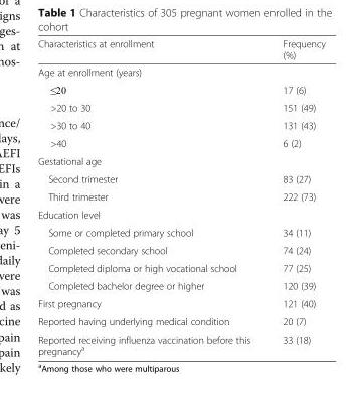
<table><thead><tr><td>Characteristics at enrollment</td><td>Frequency (%)</td></tr></thead><tbody><tr><td colspan="2">Age at enrollment (years)</td></tr><tr><td>≤20</td><td>17 (6)</td></tr><tr><td>&gt;20 to 30</td><td>151 (49)</td></tr><tr><td>&gt;30 to 40</td><td>131 (43)</td></tr><tr><td>&gt;40</td><td>6 (2)</td></tr><tr><td colspan="2">Gestational age</td></tr><tr><td>Second trimester</td><td>83 (27)</td></tr><tr><td>Third trimester</td><td>222 (73)</td></tr><tr><td colspan="2">Education level</td></tr><tr><td>Some or completed primary school</td><td>34 (11)</td></tr><tr><td>Completed secondary school</td><td>74 (24)</td></tr><tr><td>Completed diploma or high vocational school</td><td>77 (25)</td></tr><tr><td>Completed bachelor degree or higher</td><td>120 (39)</td></tr><tr><td>First pregnancy</td><td>121 (40)</td></tr><tr><td>Reported having underlying medical condition</td><td>20 (7)</td></tr><tr><td>Reported receiving influenza vaccination before this pregnancy<sup>a</sup></td><td>33 (18)</td></tr></tbody></table>